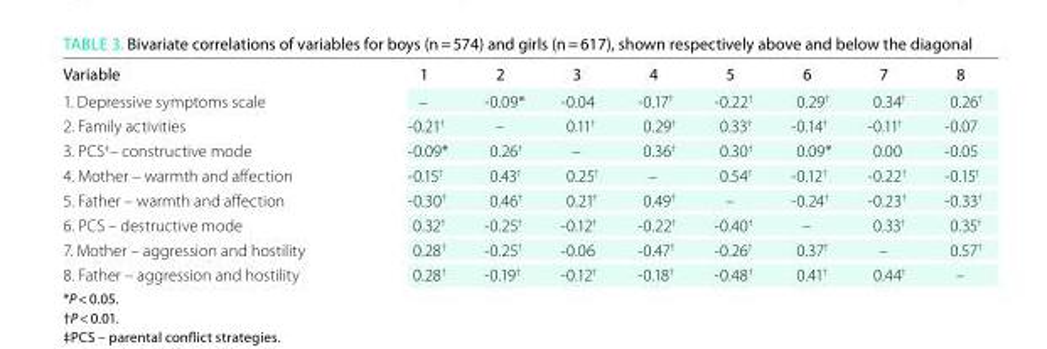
<table><thead><tr><td>Variable</td><td>1</td><td>2</td><td>3</td><td>4</td><td>5</td><td>6</td><td>7</td><td>8</td></tr></thead><tbody><tr><td>1. Depressive symptoms scale</td><td>–</td><td>-0.09*</td><td>-0.04</td><td>-0.17<sup>†</sup></td><td>-0.22<sup>†</sup></td><td>0.29<sup>†</sup></td><td>0.34<sup>†</sup></td><td>0.26<sup>†</sup></td></tr><tr><td>2. Family activities</td><td>-0.21<sup>†</sup></td><td>–</td><td>0.11<sup>†</sup></td><td>0.29<sup>†</sup></td><td>0.33<sup>†</sup></td><td>-0.14<sup>†</sup></td><td>-0.11<sup>†</sup></td><td>-0.07</td></tr><tr><td>3. PCS<sup>‡</sup>– constructive mode</td><td>-0.09*</td><td>0.26<sup>†</sup></td><td>–</td><td>0.36<sup>†</sup></td><td>0.30<sup>†</sup></td><td>0.09*</td><td>0.00</td><td>-0.05</td></tr><tr><td>4. Mother – warmth and affection</td><td>-0.15<sup>†</sup></td><td>0.43<sup>†</sup></td><td>0.25<sup>†</sup></td><td>–</td><td>0.54<sup>†</sup></td><td>-0.12<sup>†</sup></td><td>-0.22<sup>†</sup></td><td>-0.15<sup>†</sup></td></tr><tr><td>5. Father – warmth and affection</td><td>-0.30<sup>†</sup></td><td>0.46<sup>†</sup></td><td>0.21<sup>†</sup></td><td>0.49<sup>†</sup></td><td>–</td><td>-0.24<sup>†</sup></td><td>-0.23<sup>†</sup></td><td>-0.33<sup>†</sup></td></tr><tr><td>6. PCS – destructive mode</td><td>0.32<sup>†</sup></td><td>-0.25<sup>†</sup></td><td>-0.12<sup>†</sup></td><td>-0.22<sup>†</sup></td><td>-0.40<sup>†</sup></td><td>–</td><td>0.33<sup>†</sup></td><td>0.35<sup>†</sup></td></tr><tr><td>7. Mother – aggression and hostility</td><td>0.28<sup>†</sup></td><td>-0.25<sup>†</sup></td><td>-0.06</td><td>-0.47<sup>†</sup></td><td>-0.26<sup>†</sup></td><td>0.37<sup>†</sup></td><td>–</td><td>0.57<sup>†</sup></td></tr><tr><td>8. Father – aggression and hostility</td><td>0.28<sup>†</sup></td><td>-0.19<sup>†</sup></td><td>-0.12<sup>†</sup></td><td>-0.18<sup>†</sup></td><td>-0.48<sup>†</sup></td><td>0.41<sup>†</sup></td><td>0.44<sup>†</sup></td><td>–</td></tr></tbody></table>